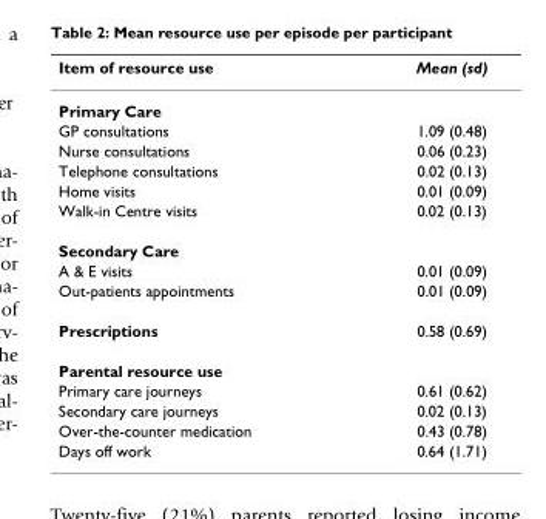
<table><thead><tr><td>Item of resource use</td><td>Mean (sd)</td></tr></thead><tbody><tr><td colspan="2">Primary Care</td></tr><tr><td>GP consultations</td><td>1.09 (0.48)</td></tr><tr><td>Nurse consultations</td><td>0.06 (0.23)</td></tr><tr><td>Telephone consultations</td><td>0.02 (0.13)</td></tr><tr><td>Home visits</td><td>0.01 (0.09)</td></tr><tr><td>Walk-in Centre visits</td><td>0.02 (0.13)</td></tr><tr><td colspan="2">Secondary Care</td></tr><tr><td>A &amp; E visits</td><td>0.01 (0.09)</td></tr><tr><td>Out-patients appointments</td><td>0.01 (0.09)</td></tr><tr><td>Prescriptions</td><td>0.58 (0.69)</td></tr><tr><td colspan="2">Parental resource use</td></tr><tr><td>Primary care journeys</td><td>0.61 (0.62)</td></tr><tr><td>Secondary care journeys</td><td>0.02 (0.13)</td></tr><tr><td>Over-the-counter medication</td><td>0.43 (0.78)</td></tr><tr><td>Days off work</td><td>0.64 (1.71)</td></tr></tbody></table>